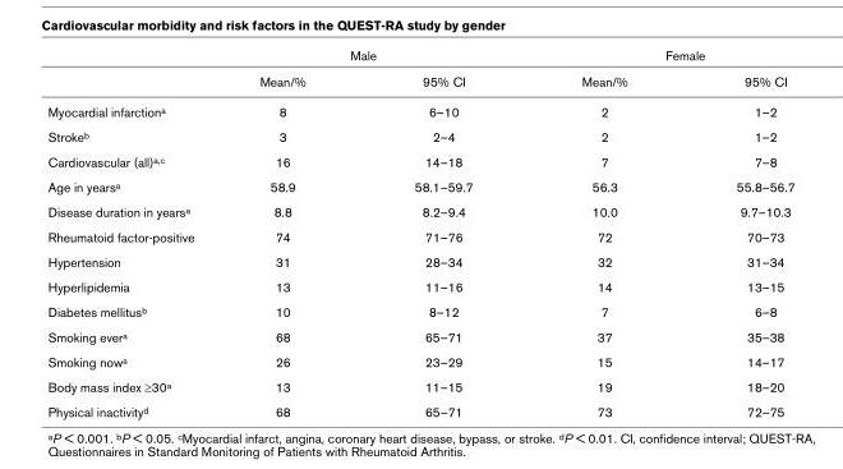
<table><thead><tr><td rowspan="2"></td><td colspan="2">Male</td><td colspan="2">Female</td></tr><tr><td>Mean/%</td><td>95% CI</td><td>Mean/%</td><td>95% CI</td></tr></thead><tbody><tr><td>Myocardial infarction<sup>a</sup></td><td>8</td><td>6–10</td><td>2</td><td>1–2</td></tr><tr><td>Stroke<sup>b</sup></td><td>3</td><td>2–4</td><td>2</td><td>1–2</td></tr><tr><td>Cardiovascular (all)<sup>a,c</sup></td><td>16</td><td>14–18</td><td>7</td><td>7–8</td></tr><tr><td>Age in years<sup>a</sup></td><td>58.9</td><td>58.1–59.7</td><td>56.3</td><td>55.8–56.7</td></tr><tr><td>Disease duration in years<sup>a</sup></td><td>8.8</td><td>8.2–9.4</td><td>10.0</td><td>9.7–10.3</td></tr><tr><td>Rheumatoid factor-positive</td><td>74</td><td>71–76</td><td>72</td><td>70–73</td></tr><tr><td>Hypertension</td><td>31</td><td>28–34</td><td>32</td><td>31–34</td></tr><tr><td>Hyperlipidemia</td><td>13</td><td>11–16</td><td>14</td><td>13–15</td></tr><tr><td>Diabetes mellitus<sup>b</sup></td><td>10</td><td>8–12</td><td>7</td><td>6–8</td></tr><tr><td>Smoking ever<sup>a</sup></td><td>68</td><td>65–71</td><td>37</td><td>35–38</td></tr><tr><td>Smoking now<sup>a</sup></td><td>26</td><td>23–29</td><td>15</td><td>14–17</td></tr><tr><td>Body mass index ≥30<sup>a</sup></td><td>13</td><td>11–15</td><td>19</td><td>18–20</td></tr><tr><td>Physical inactivity<sup>d</sup></td><td>68</td><td>65–71</td><td>73</td><td>72–75</td></tr></tbody></table>